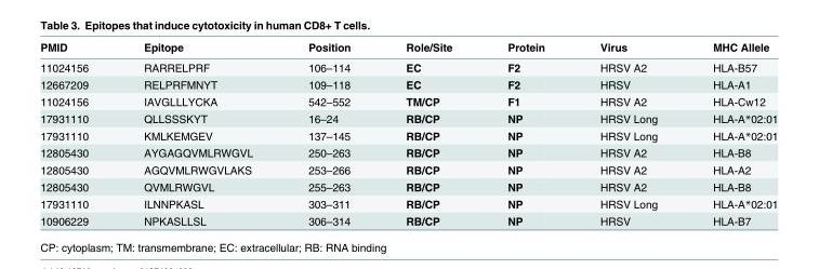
<table><thead><tr><td>PMID</td><td>Epitope</td><td>Position</td><td>Role/Site</td><td>Protein</td><td>Virus</td><td>MHC Allele</td></tr></thead><tbody><tr><td>11024156</td><td>RARRELPRF</td><td>106–114</td><td>EC</td><td>F2</td><td>HRSV A2</td><td>HLA-B57</td></tr><tr><td>12667209</td><td>RELPRFMNYT</td><td>109–118</td><td>EC</td><td>F2</td><td>HRSV</td><td>HLA-A1</td></tr><tr><td>11024156</td><td>IAVGLLLYCKA</td><td>542–552</td><td>TM/CP</td><td>F1</td><td>HRSV A2</td><td>HLA-Cw12</td></tr><tr><td>17931110</td><td>QLLSSSKYT</td><td>16–24</td><td>RB/CP</td><td>NP</td><td>HRSV Long</td><td>HLA-A*02:01</td></tr><tr><td>17931110</td><td>KMLKEMGEV</td><td>137–145</td><td>RB/CP</td><td>NP</td><td>HRSV Long</td><td>HLA-A*02:01</td></tr><tr><td>12805430</td><td>AYGAGQVMLRWGVL</td><td>250–263</td><td>RB/CP</td><td>NP</td><td>HRSV A2</td><td>HLA-B8</td></tr><tr><td>12805430</td><td>AGQVMLRWGVLAKS</td><td>253–266</td><td>RB/CP</td><td>NP</td><td>HRSV A2</td><td>HLA-A2</td></tr><tr><td>12805430</td><td>QVMLRWGVL</td><td>255–263</td><td>RB/CP</td><td>NP</td><td>HRSV A2</td><td>HLA-B8</td></tr><tr><td>17931110</td><td>ILNNPKASL</td><td>303–311</td><td>RB/CP</td><td>NP</td><td>HRSV Long</td><td>HLA-A*02:01</td></tr><tr><td>10906229</td><td>NPKASLLSL</td><td>306–314</td><td>RB/CP</td><td>NP</td><td>HRSV</td><td>HLA-B7</td></tr></tbody></table>